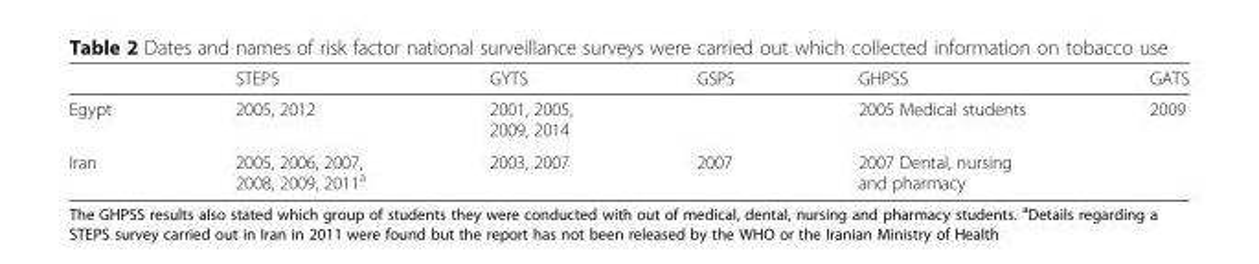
<table><thead><tr><td></td><td>STEPS</td><td>GYTS</td><td>GSPS</td><td>GHPSS</td><td>GATS</td></tr></thead><tbody><tr><td>Egypt</td><td>2005, 2012</td><td>2001, 2005, 2009, 2014</td><td></td><td>2005 Medical students</td><td>2009</td></tr><tr><td>Iran</td><td>2005, 2006, 2007, 2008, 2009, 2011<sup>a</sup></td><td>2003, 2007</td><td>2007</td><td>2007 Dental, nursing and pharmacy</td><td></td></tr></tbody></table>